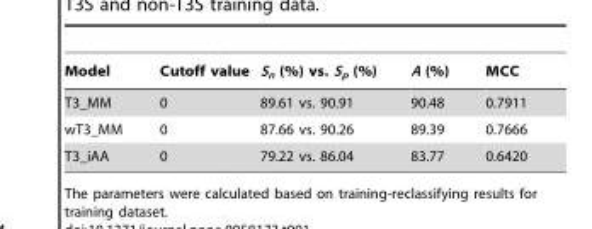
<table><thead><tr><td>Model</td><td>Cutoff value</td><td>S<sub>n</sub> (%) vs. S<sub>p</sub> (%)</td><td>A (%)</td><td>MCC</td></tr></thead><tbody><tr><td>T3_MM</td><td>0</td><td>89.61 vs. 90.91</td><td>90.48</td><td>0.7911</td></tr><tr><td>wT3_MM</td><td>0</td><td>87.66 vs. 90.26</td><td>89.39</td><td>0.7666</td></tr><tr><td>T3_iAA</td><td>0</td><td>79.22 vs. 86.04</td><td>83.77</td><td>0.6420</td></tr></tbody></table>